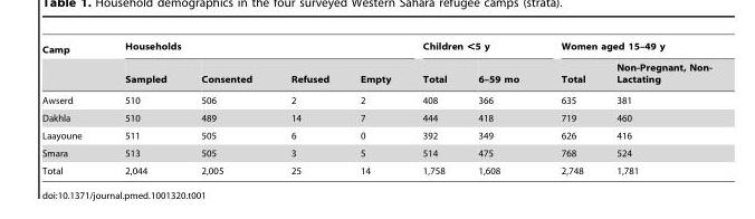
<table><thead><tr><td rowspan="2">Camp</td><td colspan="4">Households</td><td colspan="2">Children &lt;5 y</td><td colspan="2">Women aged 15–49 y</td></tr><tr><td>Sampled</td><td>Consented</td><td>Refused</td><td>Empty</td><td>Total</td><td>6–59 mo</td><td>Total</td><td>Non-Pregnant, Non- Lactating</td></tr></thead><tbody><tr><td>Awserd</td><td>510</td><td>506</td><td>2</td><td>2</td><td>408</td><td>366</td><td>635</td><td>381</td></tr><tr><td>Dakhla</td><td>510</td><td>489</td><td>14</td><td>7</td><td>444</td><td>418</td><td>719</td><td>460</td></tr><tr><td>Laayoune</td><td>511</td><td>505</td><td>6</td><td>0</td><td>392</td><td>349</td><td>626</td><td>416</td></tr><tr><td>Smara</td><td>513</td><td>505</td><td>3</td><td>5</td><td>514</td><td>475</td><td>768</td><td>524</td></tr><tr><td>Total</td><td>2,044</td><td>2,005</td><td>25</td><td>14</td><td>1,758</td><td>1,608</td><td>2,748</td><td>1,781</td></tr></tbody></table>